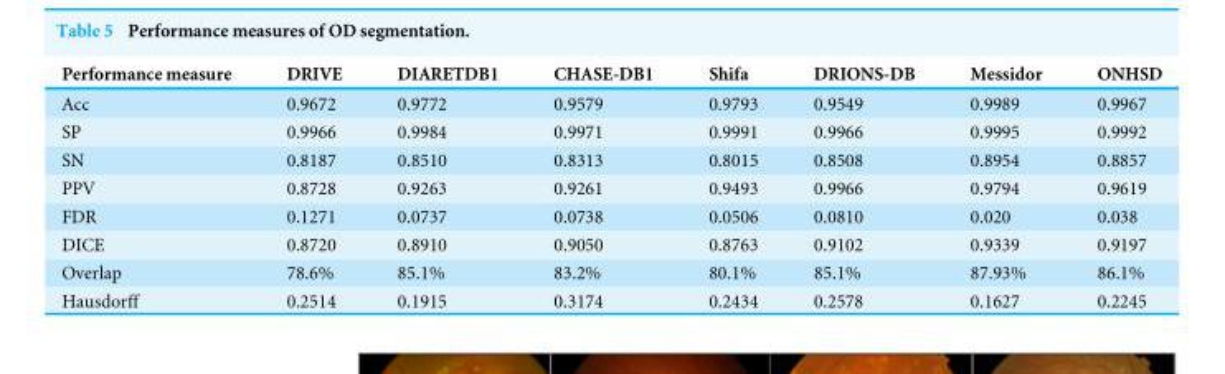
<table><thead><tr><td>Performance measure</td><td>DRIVE</td><td>DIARETDB1</td><td>CHASE-DB1</td><td>Shifa</td><td>DRIONS-DB</td><td>Messidor</td><td>ONHSD</td></tr></thead><tbody><tr><td>Acc</td><td>0.9672</td><td>0.9772</td><td>0.9579</td><td>0.9793</td><td>0.9549</td><td>0.9989</td><td>0.9967</td></tr><tr><td>SP</td><td>0.9966</td><td>0.9984</td><td>0.9971</td><td>0.9991</td><td>0.9966</td><td>0.9995</td><td>0.9992</td></tr><tr><td>SN</td><td>0.8187</td><td>0.8510</td><td>0.8313</td><td>0.8015</td><td>0.8508</td><td>0.8954</td><td>0.8857</td></tr><tr><td>PPV</td><td>0.8728</td><td>0.9263</td><td>0.9261</td><td>0.9493</td><td>0.9966</td><td>0.9794</td><td>0.9619</td></tr><tr><td>FDR</td><td>0.1271</td><td>0.0737</td><td>0.0738</td><td>0.0506</td><td>0.0810</td><td>0.020</td><td>0.038</td></tr><tr><td>DICE</td><td>0.8720</td><td>0.8910</td><td>0.9050</td><td>0.8763</td><td>0.9102</td><td>0.9339</td><td>0.9197</td></tr><tr><td>Overlap</td><td>78.6%</td><td>85.1%</td><td>83.2%</td><td>80.1%</td><td>85.1%</td><td>87.93%</td><td>86.1%</td></tr><tr><td>Hausdorff</td><td>0.2514</td><td>0.1915</td><td>0.3174</td><td>0.2434</td><td>0.2578</td><td>0.1627</td><td>0.2245</td></tr></tbody></table>